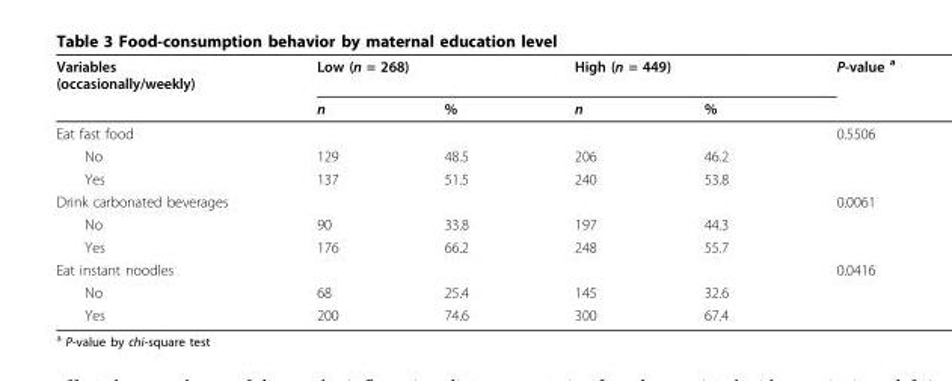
<table><thead><tr><td rowspan="2">Variables (occasionally/weekly)</td><td colspan="2">Low (n = 268)</td><td colspan="2">High (n = 449)</td><td rowspan="2">P-value <sup>a</sup></td></tr><tr><td>n</td><td>%</td><td>n</td><td>%</td></tr></thead><tbody><tr><td>Eat fast food</td><td></td><td></td><td></td><td></td><td>0.5506</td></tr><tr><td>No</td><td>129</td><td>48.5</td><td>206</td><td>46.2</td><td></td></tr><tr><td>Yes</td><td>137</td><td>51.5</td><td>240</td><td>53.8</td><td></td></tr><tr><td>Drink carbonated beverages</td><td></td><td></td><td></td><td></td><td>0.0061</td></tr><tr><td>No</td><td>90</td><td>33.8</td><td>197</td><td>44.3</td><td></td></tr><tr><td>Yes</td><td>176</td><td>66.2</td><td>248</td><td>55.7</td><td></td></tr><tr><td>Eat instant noodles</td><td></td><td></td><td></td><td></td><td>0.0416</td></tr><tr><td>No</td><td>68</td><td>25.4</td><td>145</td><td>32.6</td><td></td></tr><tr><td>Yes</td><td>200</td><td>74.6</td><td>300</td><td>67.4</td><td></td></tr></tbody></table>